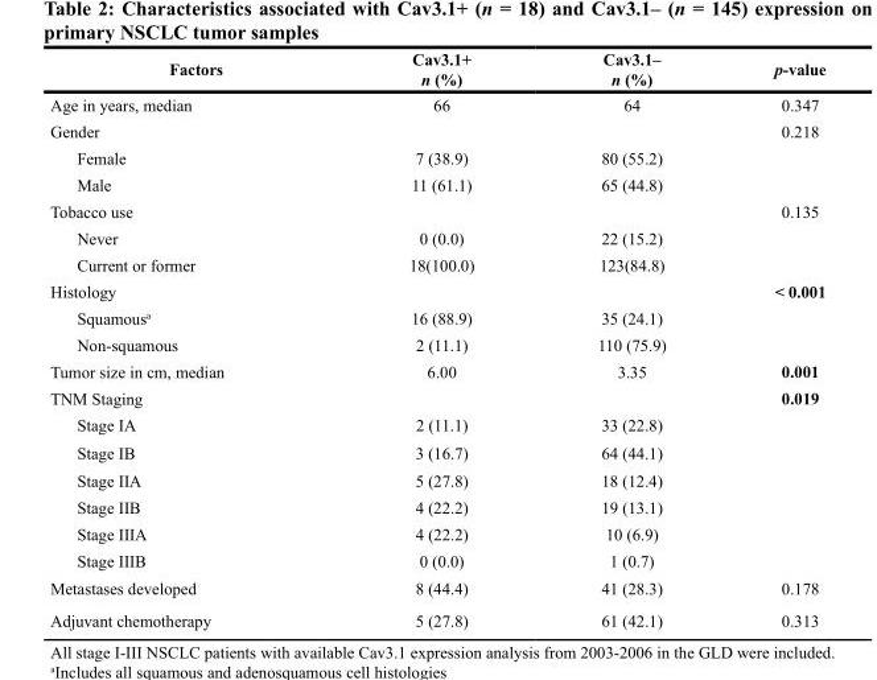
<table><thead><tr><td>Factors</td><td>Cav3.1+ n (%)</td><td>Cav3.1– n (%)</td><td>p-value</td></tr></thead><tbody><tr><td>Age in years, median</td><td>66</td><td>64</td><td>0.347</td></tr><tr><td>Gender</td><td></td><td></td><td>0.218</td></tr><tr><td>Female</td><td>7 (38.9)</td><td>80 (55.2)</td><td></td></tr><tr><td>Male</td><td>11 (61.1)</td><td>65 (44.8)</td><td></td></tr><tr><td>Tobacco use</td><td></td><td></td><td>0.135</td></tr><tr><td>Never</td><td>0 (0.0)</td><td>22 (15.2)</td><td></td></tr><tr><td>Current or former</td><td>18(100.0)</td><td>123(84.8)</td><td></td></tr><tr><td>Histology</td><td></td><td></td><td>&lt; 0.001</td></tr><tr><td>Squamous<sup>a</sup></td><td>16 (88.9)</td><td>35 (24.1)</td><td></td></tr><tr><td>Non-squamous</td><td>2 (11.1)</td><td>110 (75.9)</td><td></td></tr><tr><td>Tumor size in cm, median</td><td>6.00</td><td>3.35</td><td>0.001</td></tr><tr><td>TNM Staging</td><td></td><td></td><td>0.019</td></tr><tr><td>Stage IA</td><td>2 (11.1)</td><td>33 (22.8)</td><td></td></tr><tr><td>Stage IB</td><td>3 (16.7)</td><td>64 (44.1)</td><td></td></tr><tr><td>Stage IIA</td><td>5 (27.8)</td><td>18 (12.4)</td><td></td></tr><tr><td>Stage IIB</td><td>4 (22.2)</td><td>19 (13.1)</td><td></td></tr><tr><td>Stage IIIA</td><td>4 (22.2)</td><td>10 (6.9)</td><td></td></tr><tr><td>Stage IIIB</td><td>0 (0.0)</td><td>1 (0.7)</td><td></td></tr><tr><td>Metastases developed</td><td>8 (44.4)</td><td>41 (28.3)</td><td>0.178</td></tr><tr><td>Adjuvant chemotherapy</td><td>5 (27.8)</td><td>61 (42.1)</td><td>0.313</td></tr></tbody></table>